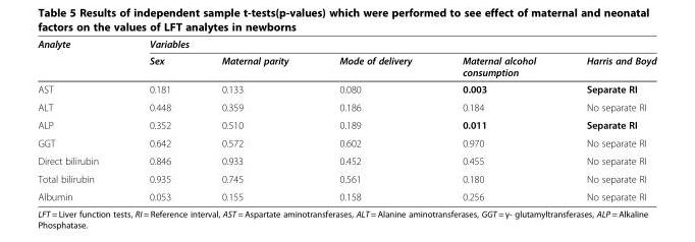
<table><thead><tr><td rowspan="2">Analyte</td><td colspan="5">Variables</td></tr><tr><td>Sex</td><td>Maternal parity</td><td>Mode of delivery</td><td>Maternal alcohol consumption</td><td>Harris and Boyd</td></tr></thead><tbody><tr><td>AST</td><td>0.181</td><td>0.133</td><td>0.080</td><td>0.003</td><td>Separate RI</td></tr><tr><td>ALT</td><td>0.448</td><td>0.359</td><td>0.186</td><td>0.184</td><td>No separate RI</td></tr><tr><td>ALP</td><td>0.352</td><td>0.510</td><td>0.189</td><td>0.011</td><td>Separate RI</td></tr><tr><td>GGT</td><td>0.642</td><td>0.572</td><td>0.602</td><td>0.970</td><td>No separate RI</td></tr><tr><td>Direct bilirubin</td><td>0.846</td><td>0.933</td><td>0.452</td><td>0.455</td><td>No separate RI</td></tr><tr><td>Total bilirubin</td><td>0.935</td><td>0.745</td><td>0.561</td><td>0.180</td><td>No separate RI</td></tr><tr><td>Albumin</td><td>0.053</td><td>0.155</td><td>0.158</td><td>0.256</td><td>No separate RI</td></tr></tbody></table>